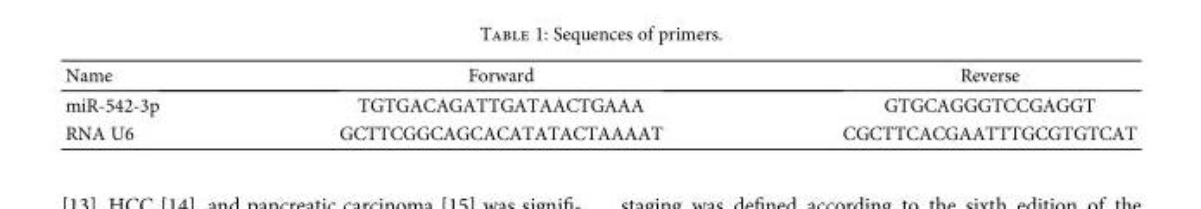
<table><thead><tr><td>Name</td><td>Forward</td><td>Reverse</td></tr></thead><tbody><tr><td>miR-542-3p</td><td>TGTGACAGATTGATAACTGAAA</td><td>GTGCAGGGTCCGAGGT</td></tr><tr><td>RNA U6</td><td>GCTTCGGCAGCACATATACTAAAAT</td><td>CGCTTCACGAATTTGCGTGTCAT</td></tr></tbody></table>